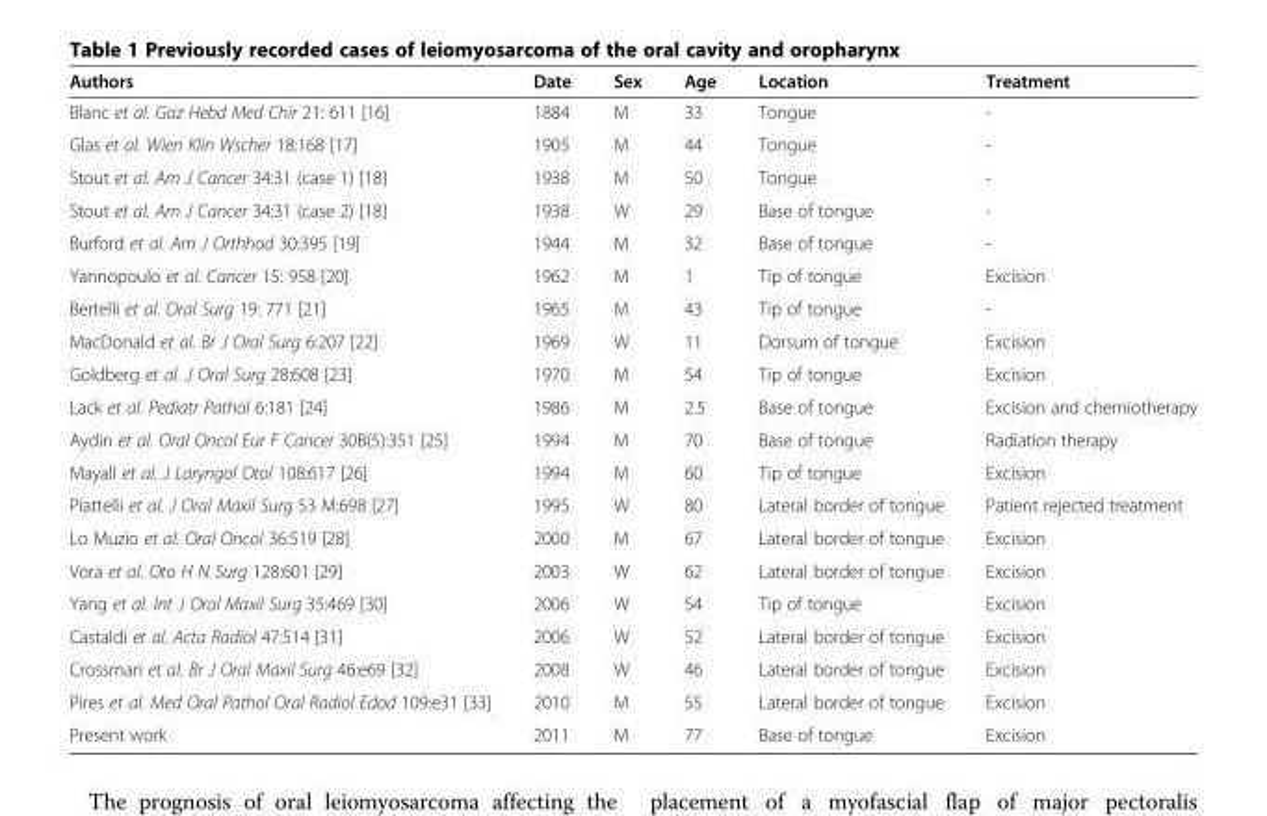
<table><thead><tr><td>Authors</td><td>Date</td><td>Sex</td><td>Age</td><td>Location</td><td>Treatment</td></tr></thead><tbody><tr><td>Blanc et al. Gaz Hebd Med Chir 21: 611 [16]</td><td>1884</td><td>M</td><td>33</td><td>Tongue</td><td>-</td></tr><tr><td>Glas et al. Wien Klin Wscher 18:168 [17]</td><td>1905</td><td>M</td><td>44</td><td>Tongue</td><td>-</td></tr><tr><td>Stout et al. Am J Cancer 34:31 (case 1) [18]</td><td>1938</td><td>M</td><td>50</td><td>Tongue</td><td>-</td></tr><tr><td>Stout et al. Am J Cancer 34:31 (case 2) [18]</td><td>1938</td><td>W</td><td>29</td><td>Base of tongue</td><td>-</td></tr><tr><td>Burford et al. Am J Orthhod 30:395 [19]</td><td>1944</td><td>M</td><td>32</td><td>Base of tongue</td><td>-</td></tr><tr><td>Yannopoulo et al. Cancer 15: 958 [20]</td><td>1962</td><td>M</td><td>1</td><td>Tip of tongue</td><td>Excision</td></tr><tr><td>Bertelli et al. Oral Surg 19: 771 [21]</td><td>1965</td><td>M</td><td>43</td><td>Tip of tongue</td><td>-</td></tr><tr><td>MacDonald et al. Br J Oral Surg 6:207 [22]</td><td>1969</td><td>W</td><td>11</td><td>Dorsum of tongue</td><td>Excision</td></tr><tr><td>Goldberg et al. J Oral Surg 28:608 [23]</td><td>1970</td><td>M</td><td>54</td><td>Tip of tongue</td><td>Excision</td></tr><tr><td>Lack et al. Pediatr Pathol 6:181 [24]</td><td>1986</td><td>M</td><td>2.5</td><td>Base of tongue</td><td>Excision and chemiotherapy</td></tr><tr><td>Aydin et al. Oral Oncol Eur F Cancer 30B(5):351 [25]</td><td>1994</td><td>M</td><td>70</td><td>Base of tongue</td><td>Radiation therapy</td></tr><tr><td>Mayall et al. J Laryngol Otol 108:617 [26]</td><td>1994</td><td>M</td><td>60</td><td>Tip of tongue</td><td>Excision</td></tr><tr><td>Piattelli et al. J Oral Maxil Surg 53 M:698 [27]</td><td>1995</td><td>W</td><td>80</td><td>Lateral border of tongue</td><td>Patient rejected treatment</td></tr><tr><td>Lo Muzio et al. Oral Oncol 36:519 [28]</td><td>2000</td><td>M</td><td>67</td><td>Lateral border of tongue</td><td>Excision</td></tr><tr><td>Vora et al. Oto H N Surg 128:601 [29]</td><td>2003</td><td>W</td><td>62</td><td>Lateral border of tongue</td><td>Excision</td></tr><tr><td>Yang et al. Int J Oral Maxil Surg 35:469 [30]</td><td>2006</td><td>W</td><td>54</td><td>Tip of tongue</td><td>Excision</td></tr><tr><td>Castaldi et al. Acta Radiol 47:514 [31]</td><td>2006</td><td>W</td><td>52</td><td>Lateral border of tongue</td><td>Excision</td></tr><tr><td>Crossman et al. Br J Oral Maxil Surg 46:e69 [32]</td><td>2008</td><td>W</td><td>46</td><td>Lateral border of tongue</td><td>Excision</td></tr><tr><td>Pires et al. Med Oral Pathol Oral Radiol Edod 109:e31 [33]</td><td>2010</td><td>M</td><td>55</td><td>Lateral border of tongue</td><td>Excision</td></tr><tr><td>Present work</td><td>2011</td><td>M</td><td>77</td><td>Base of tongue</td><td>Excision</td></tr></tbody></table>